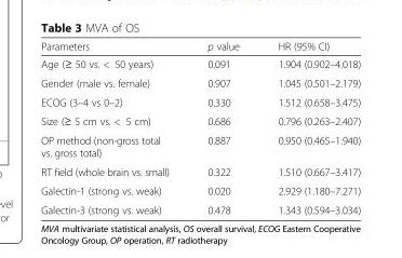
<table><thead><tr><td>Parameters</td><td>p value</td><td>HR (95% CI)</td></tr></thead><tbody><tr><td>Age (≥ 50 vs. &lt; 50 years)</td><td>0.091</td><td>1.904 (0.902–4.018)</td></tr><tr><td>Gender (male vs. female)</td><td>0.907</td><td>1.045 (0.501–2.179)</td></tr><tr><td>ECOG (3–4 vs 0–2)</td><td>0.330</td><td>1.512 (0.658–3.475)</td></tr><tr><td>Size (≥ 5 cm vs. &lt; 5 cm)</td><td>0.686</td><td>0.796 (0.263–2.407)</td></tr><tr><td>OP method (non-gross total vs. gross total)</td><td>0.887</td><td>0.950 (0.465–1.940)</td></tr><tr><td>RT field (whole brain vs. small)</td><td>0.322</td><td>1.510 (0.667–3.417)</td></tr><tr><td>Galectin-1 (strong vs. weak)</td><td>0.020</td><td>2.929 (1.180–7.271)</td></tr><tr><td>Galectin-3 (strong vs. weak)</td><td>0.478</td><td>1.343 (0.594–3.034)</td></tr></tbody></table>